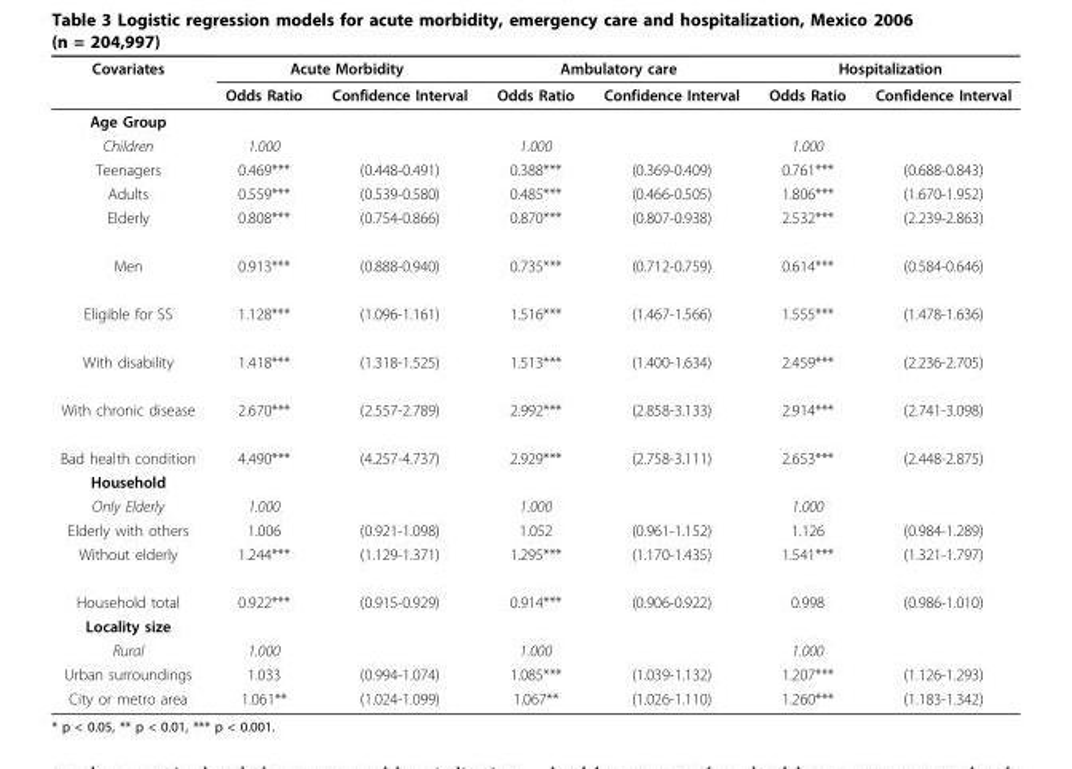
<table><thead><tr><td rowspan="2">Covariates</td><td colspan="2">Acute Morbidity</td><td colspan="2">Ambulatory care</td><td colspan="2">Hospitalization</td></tr><tr><td>Odds Ratio</td><td>Confidence Interval</td><td>Odds Ratio</td><td>Confidence Interval</td><td>Odds Ratio</td><td>Confidence Interval</td></tr></thead><tbody><tr><td colspan="7">Age Group</td></tr><tr><td>Children</td><td>1.000</td><td></td><td>1.000</td><td></td><td>1.000</td><td></td></tr><tr><td>Teenagers</td><td>0.469***</td><td>(0.448-0.491)</td><td>0.388***</td><td>(0.369-0.409)</td><td>0.761***</td><td>(0.688-0.843)</td></tr><tr><td>Adults</td><td>0.559***</td><td>(0.539-0.580)</td><td>0.485***</td><td>(0.466-0.505)</td><td>1.806***</td><td>(1.670-1.952)</td></tr><tr><td>Elderly</td><td>0.808***</td><td>(0.754-0.866)</td><td>0.870***</td><td>(0.807-0.938)</td><td>2.532***</td><td>(2.239-2.863)</td></tr><tr><td>Men</td><td>0.913***</td><td>(0.888-0.940)</td><td>0.735***</td><td>(0.712-0.759)</td><td>0.614***</td><td>(0.584-0.646)</td></tr><tr><td>Eligible for SS</td><td>1.128***</td><td>(1.096-1.161)</td><td>1.516***</td><td>(1.467-1.566)</td><td>1.555***</td><td>(1.478-1.636)</td></tr><tr><td>With disability</td><td>1.418***</td><td>(1.318-1.525)</td><td>1.513***</td><td>(1.400-1.634)</td><td>2.459***</td><td>(2.236-2.705)</td></tr><tr><td>With chronic disease</td><td>2.670***</td><td>(2.557-2.789)</td><td>2.992***</td><td>(2.858-3.133)</td><td>2.914***</td><td>(2.741-3.098)</td></tr><tr><td>Bad health condition</td><td>4.490***</td><td>(4.257-4.737)</td><td>2.929***</td><td>(2.758-3.111)</td><td>2.653***</td><td>(2.448-2.875)</td></tr><tr><td colspan="7">Household</td></tr><tr><td>Only Elderly</td><td>1.000</td><td></td><td>1.000</td><td></td><td>1.000</td><td></td></tr><tr><td>Elderly with others</td><td>1.006</td><td>(0.921-1.098)</td><td>1.052</td><td>(0.961-1.152)</td><td>1.126</td><td>(0.984-1.289)</td></tr><tr><td>Without elderly</td><td>1.244***</td><td>(1.129-1.371)</td><td>1.295***</td><td>(1.170-1.435)</td><td>1.541***</td><td>(1.321-1.797)</td></tr><tr><td>Household total</td><td>0.922***</td><td>(0.915-0.929)</td><td>0.914***</td><td>(0.906-0.922)</td><td>0.998</td><td>(0.986-1.010)</td></tr><tr><td colspan="7">Locality size</td></tr><tr><td>Rural</td><td>1.000</td><td></td><td>1.000</td><td></td><td>1.000</td><td></td></tr><tr><td>Urban surroundings</td><td>1.033</td><td>(0.994-1.074)</td><td>1.085***</td><td>(1.039-1.132)</td><td>1.207***</td><td>(1.126-1.293)</td></tr><tr><td>City or metro area</td><td>1.061**</td><td>(1.024-1.099)</td><td>1.067**</td><td>(1.026-1.110)</td><td>1.260***</td><td>(1.183-1.342)</td></tr></tbody></table>